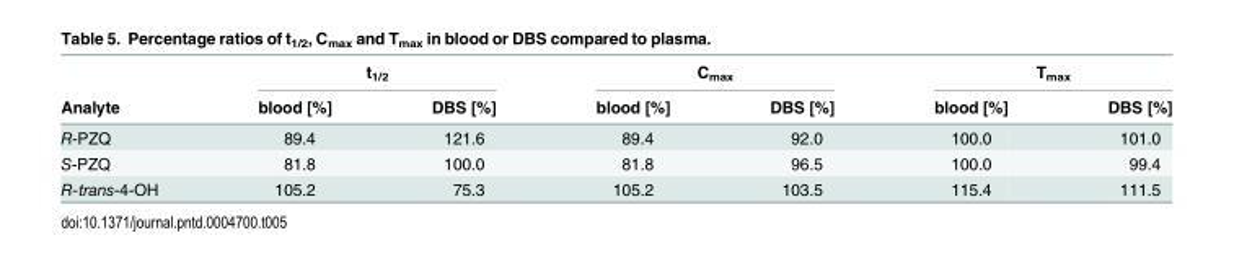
<table><thead><tr><td rowspan="2">Analyte</td><td colspan="2">t<sub>1/2</sub></td><td colspan="2">C<sub>max</sub></td><td colspan="2">T<sub>max</sub></td></tr><tr><td>blood [%]</td><td>DBS [%]</td><td>blood [%]</td><td>DBS [%]</td><td>blood [%]</td><td>DBS [%]</td></tr></thead><tbody><tr><td>R-PZQ</td><td>89.4</td><td>121.6</td><td>89.4</td><td>92.0</td><td>100.0</td><td>101.0</td></tr><tr><td>S-PZQ</td><td>81.8</td><td>100.0</td><td>81.8</td><td>96.5</td><td>100.0</td><td>99.4</td></tr><tr><td>R-trans-4-OH</td><td>105.2</td><td>75.3</td><td>105.2</td><td>103.5</td><td>115.4</td><td>111.5</td></tr></tbody></table>